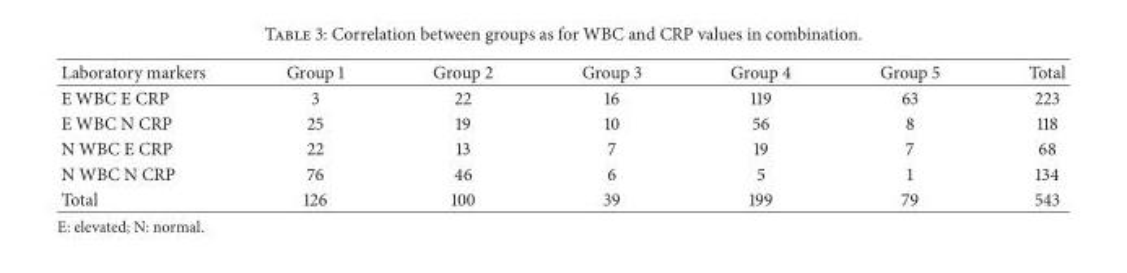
<table><thead><tr><td>Laboratory markers</td><td>Group 1</td><td>Group 2</td><td>Group 3</td><td>Group 4</td><td>Group 5</td><td>Total</td></tr></thead><tbody><tr><td>E WBC E CRP</td><td>3</td><td>22</td><td>16</td><td>119</td><td>63</td><td>223</td></tr><tr><td>E WBC N CRP</td><td>25</td><td>19</td><td>10</td><td>56</td><td>8</td><td>118</td></tr><tr><td>N WBC E CRP</td><td>22</td><td>13</td><td>7</td><td>19</td><td>7</td><td>68</td></tr><tr><td>N WBC N CRP</td><td>76</td><td>46</td><td>6</td><td>5</td><td>1</td><td>134</td></tr><tr><td>Total</td><td>126</td><td>100</td><td>39</td><td>199</td><td>79</td><td>543</td></tr></tbody></table>